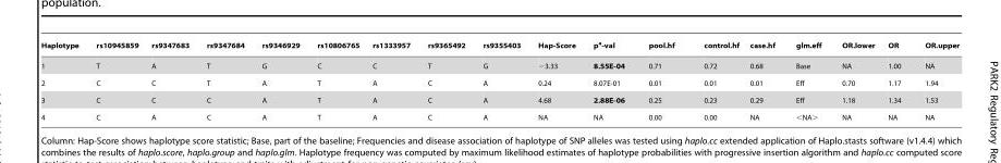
<table><thead><tr><td>Haplotype</td><td>rs10945859</td><td>rs9347683</td><td>rs9347684</td><td>rs9346929</td><td>rs10806765</td><td>rs1333957</td><td>rs9365492</td><td>rs9355403</td><td>Hap-Score</td><td>p<sup>a</sup>-val</td><td>pool.hf</td><td>control.hf</td><td>case.hf</td><td>glm.eff</td><td>OR.lower</td><td>OR</td><td>OR.upper</td></tr></thead><tbody><tr><td>1</td><td>T</td><td>A</td><td>T</td><td>G</td><td>C</td><td>C</td><td>T</td><td>G</td><td>−3.33</td><td>8.55E-04</td><td>0.71</td><td>0.72</td><td>0.68</td><td>Base</td><td>NA</td><td>1.00</td><td>NA</td></tr><tr><td>2</td><td>C</td><td>C</td><td>T</td><td>A</td><td>T</td><td>A</td><td>C</td><td>A</td><td>0.24</td><td>8.07E-01</td><td>0.01</td><td>0.01</td><td>0.01</td><td>Eff</td><td>0.70</td><td>1.17</td><td>1.94</td></tr><tr><td>3</td><td>C</td><td>C</td><td>C</td><td>A</td><td>T</td><td>A</td><td>C</td><td>A</td><td>4.68</td><td>2.88E-06</td><td>0.25</td><td>0.23</td><td>0.29</td><td>Eff</td><td>1.18</td><td>1.34</td><td>1.53</td></tr><tr><td>4</td><td>C</td><td>A</td><td>C</td><td>A</td><td>T</td><td>A</td><td>C</td><td>A</td><td>NA</td><td>NA</td><td>0.00</td><td>0.00</td><td>NA</td><td>&lt;NA&gt;</td><td>NA</td><td>NA</td><td>NA</td></tr></tbody></table>